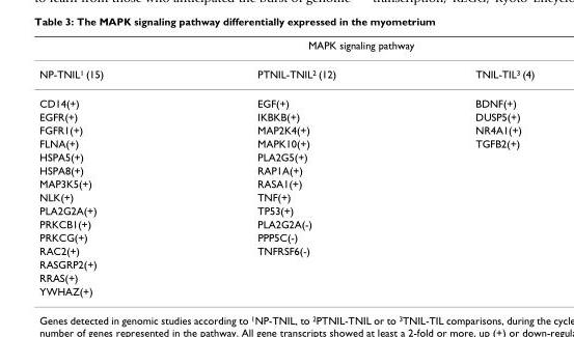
<table><thead><tr><td colspan="3">MAPK signaling pathway</td></tr><tr><td>NP-TNIL1 (15)</td><td>PTNIL-TNIL2 (12)</td><td>TNIL-TIL3 (4)</td></tr></thead><tbody><tr><td>CD14(+)</td><td>EGF(+)</td><td>BDNF(+)</td></tr><tr><td>EGFR(+)</td><td>IKBKB(+)</td><td>DUSP5(+)</td></tr><tr><td>FGFR1(+)</td><td>MAP2K4(+)</td><td>NR4A1(+)</td></tr><tr><td>FLNA(+)</td><td>MAPK10(+)</td><td>TGFB2(+)</td></tr><tr><td>HSPA5(+)</td><td>PLA2G5(+)</td><td></td></tr><tr><td>HSPA8(+)</td><td>RAP1A(+)</td><td></td></tr><tr><td>MAP3K5(+)</td><td>RASA1(+)</td><td></td></tr><tr><td>NLK(+)</td><td>TNF(+)</td><td></td></tr><tr><td>PLA2G2A(+)</td><td>TP53(+)</td><td></td></tr><tr><td>PRKCB1(+)</td><td>PLA2G2A(-)</td><td></td></tr><tr><td>PRKCG(+)</td><td>PPP5C(-)</td><td></td></tr><tr><td>RAC2(+)</td><td>TNFRSF6(-)</td><td></td></tr><tr><td colspan="3">RASGRP2(+)</td></tr><tr><td colspan="3">RRAS(+)</td></tr><tr><td>YWHAZ(+)</td><td></td><td></td></tr></tbody></table>